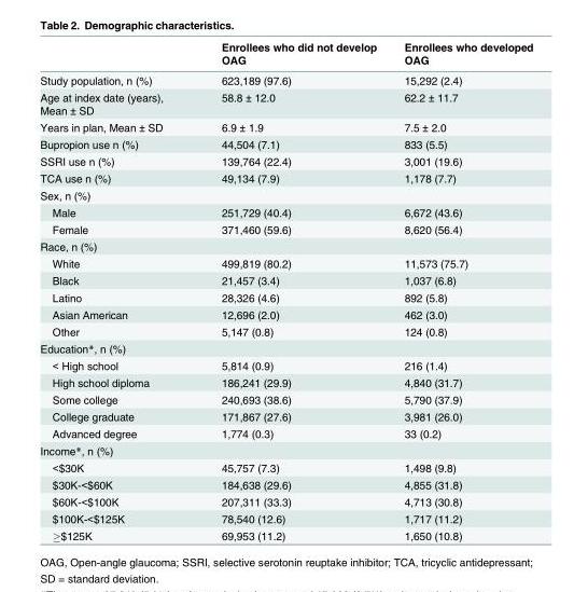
<table><thead><tr><td></td><td>Enrollees who did not develop OAG</td><td>Enrollees who developed OAG</td></tr></thead><tbody><tr><td>Study population, n (%)</td><td>623,189 (97.6)</td><td>15,292 (2.4)</td></tr><tr><td>Age at index date (years), Mean ± SD</td><td>58.8 ± 12.0</td><td>62.2 ± 11.7</td></tr><tr><td>Years in plan, Mean ± SD</td><td>6.9 ± 1.9</td><td>7.5 ± 2.0</td></tr><tr><td>Bupropion use n (%)</td><td>44,504 (7.1)</td><td>833 (5.5)</td></tr><tr><td>SSRI use n (%)</td><td>139,764 (22.4)</td><td>3,001 (19.6)</td></tr><tr><td>TCA use n (%)</td><td>49,134 (7.9)</td><td>1,178 (7.7)</td></tr><tr><td colspan="3">Sex, n (%)</td></tr><tr><td>Male</td><td>251,729 (40.4)</td><td>6,672 (43.6)</td></tr><tr><td>Female</td><td>371,460 (59.6)</td><td>8,620 (56.4)</td></tr><tr><td colspan="3">Race, n (%)</td></tr><tr><td>White</td><td>499,819 (80.2)</td><td>11,573 (75.7)</td></tr><tr><td>Black</td><td>21,457 (3.4)</td><td>1,037 (6.8)</td></tr><tr><td>Latino</td><td>28,326 (4.6)</td><td>892 (5.8)</td></tr><tr><td>Asian American</td><td>12,696 (2.0)</td><td>462 (3.0)</td></tr><tr><td>Other</td><td>5,147 (0.8)</td><td>124 (0.8)</td></tr><tr><td colspan="3">Education*, n (%)</td></tr><tr><td>&lt; High school</td><td>5,814 (0.9)</td><td>216 (1.4)</td></tr><tr><td>High school diploma</td><td>186,241 (29.9)</td><td>4,840 (31.7)</td></tr><tr><td>Some college</td><td>240,693 (38.6)</td><td>5,790 (37.9)</td></tr><tr><td>College graduate</td><td>171,867 (27.6)</td><td>3,981 (26.0)</td></tr><tr><td>Advanced degree</td><td>1,774 (0.3)</td><td>33 (0.2)</td></tr><tr><td colspan="3">Income*, n (%)</td></tr><tr><td>&lt;$30K</td><td>45,757 (7.3)</td><td>1,498 (9.8)</td></tr><tr><td>$30K-&lt;$60K</td><td>184,638 (29.6)</td><td>4,855 (31.8)</td></tr><tr><td>$60K-&lt;$100K</td><td>207,311 (33.3)</td><td>4,713 (30.8)</td></tr><tr><td>$100K-&lt;$125K</td><td>78,540 (12.6)</td><td>1,717 (11.2)</td></tr><tr><td>≥$125K</td><td>69,953 (11.2)</td><td>1,650 (10.8)</td></tr></tbody></table>